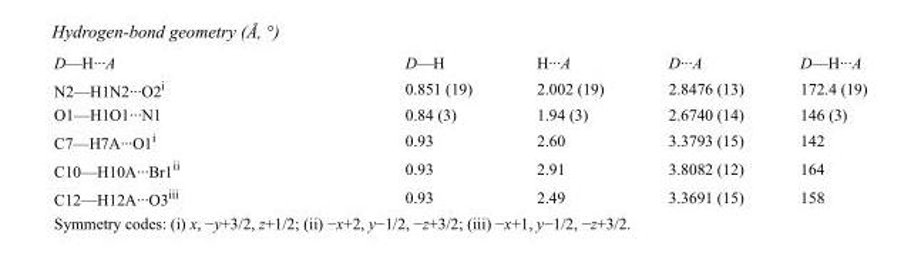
<table><tbody><tr><td>D—H···A</td><td>D—H</td><td>H···A</td><td>D···A</td><td>D—H···A</td></tr><tr><td>N2—H1N2···O2<sup>i</sup></td><td>0.851 (19)</td><td>2.002 (19)</td><td>2.8476 (13)</td><td>172.4 (19)</td></tr><tr><td>O1—H1O1···N1</td><td>0.84 (3)</td><td>1.94 (3)</td><td>2.6740 (14)</td><td>146 (3)</td></tr><tr><td>C7—H7A···O1<sup>i</sup></td><td>0.93</td><td>2.60</td><td>3.3793 (15)</td><td>142</td></tr><tr><td>C10—H10A···Br1<sup>ii</sup></td><td>0.93</td><td>2.91</td><td>3.8082 (12)</td><td>164</td></tr><tr><td>C12—H12A···O3<sup>iii</sup></td><td>0.93</td><td>2.49</td><td>3.3691 (15)</td><td>158</td></tr></tbody></table>